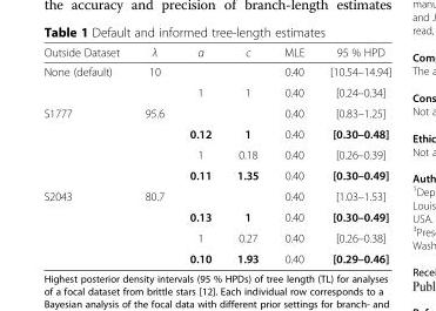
<table><thead><tr><td>Outside Dataset</td><td>λ</td><td>α</td><td>c</td><td>MLE</td><td>95 % HPD</td></tr></thead><tbody><tr><td rowspan="2">None (default)</td><td>10</td><td></td><td></td><td>0.40</td><td>[10.54–14.94]</td></tr><tr><td></td><td>1</td><td>1</td><td>0.40</td><td>[0.24–0.34]</td></tr><tr><td rowspan="4">S1777</td><td>95.6</td><td></td><td></td><td>0.40</td><td>[0.83–1.25]</td></tr><tr><td></td><td>0.12</td><td>1</td><td>0.40</td><td>[0.30–0.48]</td></tr><tr><td></td><td>1</td><td>0.18</td><td>0.40</td><td>[0.26–0.39]</td></tr><tr><td></td><td>0.11</td><td>1.35</td><td>0.40</td><td>[0.30–0.49]</td></tr><tr><td rowspan="4">S2043</td><td>80.7</td><td></td><td></td><td>0.40</td><td>[1.03–1.53]</td></tr><tr><td></td><td>0.13</td><td>1</td><td>0.40</td><td>[0.30–0.49]</td></tr><tr><td></td><td>1</td><td>0.27</td><td>0.40</td><td>[0.26–0.38]</td></tr><tr><td></td><td>0.10</td><td>1.93</td><td>0.40</td><td>[0.29–0.46]</td></tr></tbody></table>